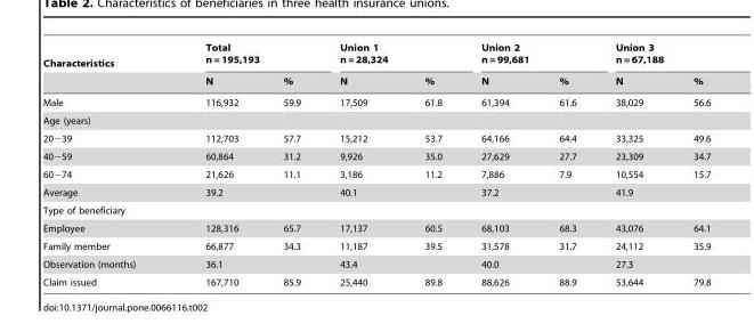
<table><thead><tr><td rowspan="2">Characteristics</td><td colspan="2">Total n = 195,193</td><td colspan="2">Union 1 n = 28,324</td><td colspan="2">Union 2 n = 99,681</td><td colspan="2">Union 3 n = 67,188</td></tr><tr><td>N</td><td>%</td><td>N</td><td>%</td><td>N</td><td>%</td><td>N</td><td>%</td></tr></thead><tbody><tr><td>Male</td><td>116,932</td><td>59.9</td><td>17,509</td><td>61.8</td><td>61,394</td><td>61.6</td><td>38,029</td><td>56.6</td></tr><tr><td colspan="9">Age (years)</td></tr><tr><td>20−39</td><td>112,703</td><td>57.7</td><td>15,212</td><td>53.7</td><td>64,166</td><td>64.4</td><td>33,325</td><td>49.6</td></tr><tr><td>40−59</td><td>60,864</td><td>31.2</td><td>9,926</td><td>35.0</td><td>27,629</td><td>27.7</td><td>23,309</td><td>34.7</td></tr><tr><td>60−74</td><td>21,626</td><td>11.1</td><td>3,186</td><td>11.2</td><td>7,886</td><td>7.9</td><td>10,554</td><td>15.7</td></tr><tr><td>Average</td><td colspan="2">39.2</td><td colspan="2">40.1</td><td colspan="2">37.2</td><td colspan="2">41.9</td></tr><tr><td colspan="9">Type of beneficiary</td></tr><tr><td>Employee</td><td>128,316</td><td>65.7</td><td>17,137</td><td>60.5</td><td>68,103</td><td>68.3</td><td>43,076</td><td>64.1</td></tr><tr><td>Family member</td><td>66,877</td><td>34.3</td><td>11,187</td><td>39.5</td><td>31,578</td><td>31.7</td><td>24,112</td><td>35.9</td></tr><tr><td>Observation (months)</td><td colspan="2">36.1</td><td colspan="2">43.4</td><td colspan="2">40.0</td><td colspan="2">27.3</td></tr><tr><td>Claim issued</td><td>167,710</td><td>85.9</td><td>25,440</td><td>89.8</td><td>88,626</td><td>88.9</td><td>53,644</td><td>79.8</td></tr></tbody></table>